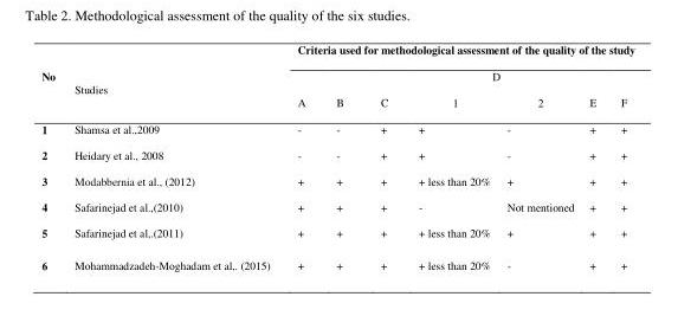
<table><thead><tr><td rowspan="3">No</td><td rowspan="3">Studies</td><td colspan="7">Criteria used for methodological assessment of the quality of the study</td></tr><tr><td rowspan="2">A</td><td rowspan="2">B</td><td rowspan="2">C</td><td colspan="2">D</td><td rowspan="2">E</td><td rowspan="2">F</td></tr><tr><td>1</td><td>2</td></tr></thead><tbody><tr><td>1</td><td>Shamsa et al.,2009</td><td>-</td><td>-</td><td>+</td><td>+</td><td>-</td><td>+</td><td>+</td></tr><tr><td>2</td><td>Heidary et al., 2008</td><td>-</td><td>-</td><td>+</td><td>+</td><td>-</td><td>+</td><td>+</td></tr><tr><td>3</td><td>Modabbernia et al., (2012)</td><td>+</td><td>+</td><td>+</td><td>+ less than 20%</td><td>+</td><td>+</td><td>+</td></tr><tr><td>4</td><td>Safarinejad et al.,(2010)</td><td>+</td><td>+</td><td>+</td><td>-</td><td>Not mentioned</td><td>+</td><td>+</td></tr><tr><td>5</td><td>Safarinejad et al,.(2011)</td><td>+</td><td>+</td><td>+</td><td>+ less than 20%</td><td>+</td><td>+</td><td>+</td></tr><tr><td>6</td><td>Mohammadzadeh-Moghadam et al,. (2015)</td><td>+</td><td>+</td><td>+</td><td>+ less than 20%</td><td>-</td><td>+</td><td>+</td></tr></tbody></table>